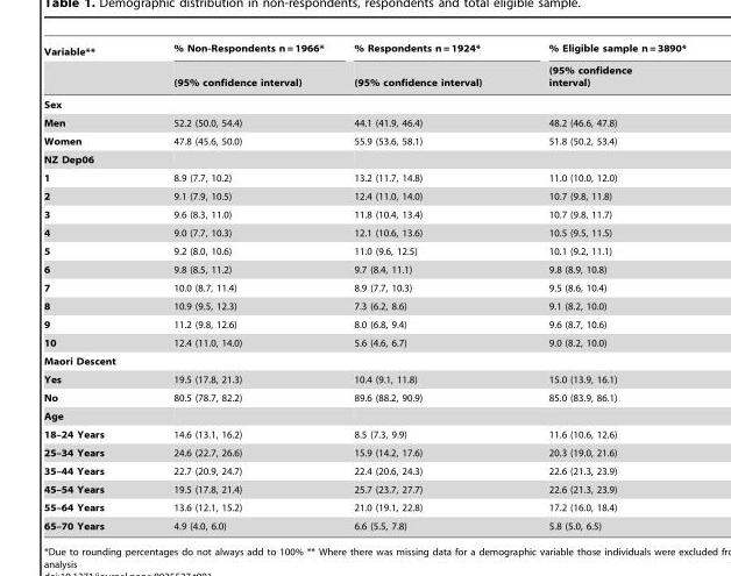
<table><thead><tr><td rowspan="2">Variable**</td><td rowspan="2">% Non-Respondents n = 1966* (95% confidence interval)</td><td rowspan="2">% Respondents n = 1924* (95% confidence interval)</td><td rowspan="2">% Eligible sample n = 3890* (95% confidence interval)</td></tr><tr></tr></thead><tbody><tr><td colspan="4">Sex</td></tr><tr><td>Men</td><td>52.2 (50.0, 54.4)</td><td>44.1 (41.9, 46.4)</td><td>48.2 (46.6, 47.8)</td></tr><tr><td>Women</td><td>47.8 (45.6, 50.0)</td><td>55.9 (53.6, 58.1)</td><td>51.8 (50.2, 53.4)</td></tr><tr><td colspan="4">NZ Dep06</td></tr><tr><td>1</td><td>8.9 (7.7, 10.2)</td><td>13.2 (11.7, 14.8)</td><td>11.0 (10.0, 12.0)</td></tr><tr><td>2</td><td>9.1 (7.9, 10.5)</td><td>12.4 (11.0, 14.0)</td><td>10.7 (9.8, 11.8)</td></tr><tr><td>3</td><td>9.6 (8.3, 11.0)</td><td>11.8 (10.4, 13.4)</td><td>10.7 (9.8, 11.7)</td></tr><tr><td>4</td><td>9.0 (7.7, 10.3)</td><td>12.1 (10.6, 13.6)</td><td>10.5 (9.5, 11.5)</td></tr><tr><td>5</td><td>9.2 (8.0, 10.6)</td><td>11.0 (9.6, 12.5)</td><td>10.1 (9.2, 11.1)</td></tr><tr><td>6</td><td>9.8 (8.5, 11.2)</td><td>9.7 (8.4, 11.1)</td><td>9.8 (8.9, 10.8)</td></tr><tr><td>7</td><td>10.0 (8.7, 11.4)</td><td>8.9 (7.7, 10.3)</td><td>9.5 (8.6, 10.4)</td></tr><tr><td>8</td><td>10.9 (9.5, 12.3)</td><td>7.3 (6.2, 8.6)</td><td>9.1 (8.2, 10.0)</td></tr><tr><td>9</td><td>11.2 (9.8, 12.6)</td><td>8.0 (6.8, 9.4)</td><td>9.6 (8.7, 10.6)</td></tr><tr><td>10</td><td>12.4 (11.0, 14.0)</td><td>5.6 (4.6, 6.7)</td><td>9.0 (8.2, 10.0)</td></tr><tr><td colspan="4">Maori Descent</td></tr><tr><td>Yes</td><td>19.5 (17.8, 21.3)</td><td>10.4 (9.1, 11.8)</td><td>15.0 (13.9, 16.1)</td></tr><tr><td>No</td><td>80.5 (78.7, 82.2)</td><td>89.6 (88.2, 90.9)</td><td>85.0 (83.9, 86.1)</td></tr><tr><td colspan="4">Age</td></tr><tr><td>18–24 Years</td><td>14.6 (13.1, 16.2)</td><td>8.5 (7.3, 9.9)</td><td>11.6 (10.6, 12.6)</td></tr><tr><td>25–34 Years</td><td>24.6 (22.7, 26.6)</td><td>15.9 (14.2, 17.6)</td><td>20.3 (19.0, 21.6)</td></tr><tr><td>35–44 Years</td><td>22.7 (20.9, 24.7)</td><td>22.4 (20.6, 24.3)</td><td>22.6 (21.3, 23.9)</td></tr><tr><td>45–54 Years</td><td>19.5 (17.8, 21.4)</td><td>25.7 (23.7, 27.7)</td><td>22.6 (21.3, 23.9)</td></tr><tr><td>55–64 Years</td><td>13.6 (12.1, 15.2)</td><td>21.0 (19.1, 22.8)</td><td>17.2 (16.0, 18.4)</td></tr><tr><td>65–70 Years</td><td>4.9 (4.0, 6.0)</td><td>6.6 (5.5, 7.8)</td><td>5.8 (5.0, 6.5)</td></tr></tbody></table>